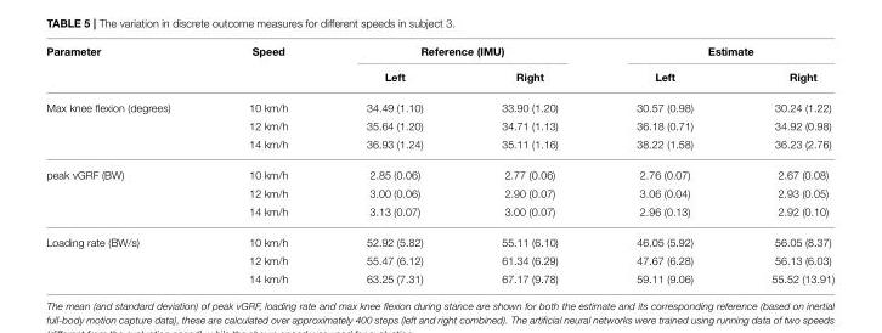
<table><thead><tr><td rowspan="2">Parameter</td><td rowspan="2">Speed</td><td colspan="2">Reference (IMU)</td><td colspan="2">Estimate</td></tr><tr><td>Left</td><td>Right</td><td>Left</td><td>Right</td></tr></thead><tbody><tr><td rowspan="3">Max knee flexion (degrees)</td><td>10 km/h</td><td>34.49 (1.10)</td><td>33.90 (1.20)</td><td>30.57 (0.98)</td><td>30.24 (1.22)</td></tr><tr><td>12 km/h</td><td>35.64 (1.20)</td><td>34.71 (1.13)</td><td>36.18 (0.71)</td><td>34.92 (0.98)</td></tr><tr><td>14 km/h</td><td>36.93 (1.24)</td><td>35.11 (1.16)</td><td>38.22 (1.58)</td><td>36.23 (2.76)</td></tr><tr><td rowspan="3">peak vGRF (BW)</td><td>10 km/h</td><td>2.85 (0.06)</td><td>2.77 (0.06)</td><td>2.76 (0.07)</td><td>2.67 (0.08)</td></tr><tr><td>12 km/h</td><td>3.00 (0.06)</td><td>2.90 (0.07)</td><td>3.06 (0.04)</td><td>2.93 (0.05)</td></tr><tr><td>14 km/h</td><td>3.13 (0.07)</td><td>3.00 (0.07)</td><td>2.96 (0.13)</td><td>2.92 (0.10)</td></tr><tr><td rowspan="3">Loading rate (BW/s)</td><td>10 km/h</td><td>52.92 (5.82)</td><td>55.11 (6.10)</td><td>46.05 (5.92)</td><td>56.05 (8.37)</td></tr><tr><td>12 km/h</td><td>55.47 (6.12)</td><td>61.34 (6.29)</td><td>47.67 (6.28)</td><td>56.13 (6.03)</td></tr><tr><td>14 km/h</td><td>63.25 (7.31)</td><td>67.17 (9.78)</td><td>59.11 (9.06)</td><td>55.52 (13.91)</td></tr></tbody></table>